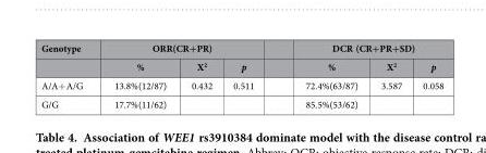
<table><thead><tr><td rowspan="2">Genotype</td><td colspan="3">ORR(CR+PR)</td><td colspan="3">DCR (CR+PR+SD)</td></tr><tr><td>%</td><td>X<sup>2</sup></td><td>p</td><td>%</td><td>X<sup>2</sup></td><td>p</td></tr></thead><tbody><tr><td>A/A+ A/G</td><td>13.8%(12/87)</td><td>0.432</td><td>0.511</td><td>72.4%(63/87)</td><td>3.587</td><td>0.058</td></tr><tr><td>G/G</td><td>17.7%(11/62)</td><td></td><td></td><td>85.5%(53/62)</td><td></td><td></td></tr></tbody></table>